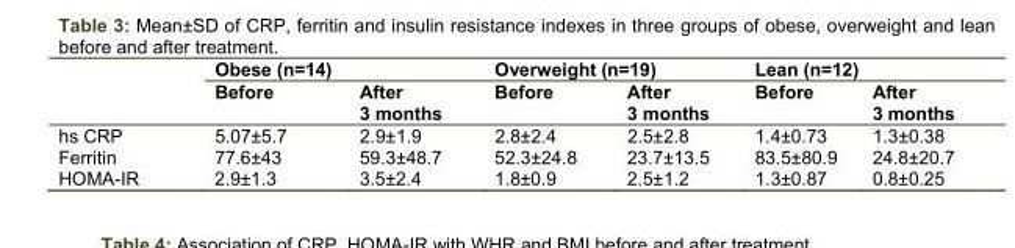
<table><thead><tr><td rowspan="2"></td><td colspan="2">Obese (n=14)</td><td colspan="2">Overweight (n=19)</td><td colspan="2">Lean (n=12)</td></tr><tr><td>Before</td><td>After 3 months</td><td>Before</td><td>After 3 months</td><td>Before</td><td>After 3 months</td></tr></thead><tbody><tr><td>hs CRP</td><td>5.07±5.7</td><td>2.9±1.9</td><td>2.8±2.4</td><td>2.5±2.8</td><td>1.4±0.73</td><td>1.3±0.38</td></tr><tr><td>Ferritin</td><td>77.6±43</td><td>59.3±48.7</td><td>52.3±24.8</td><td>23.7±13.5</td><td>83.5±80.9</td><td>24.8±20.7</td></tr><tr><td>HOMA-IR</td><td>2.9±1.3</td><td>3.5±2.4</td><td>1.8±0.9</td><td>2.5±1.2</td><td>1.3±0.87</td><td>0.8±0.25</td></tr></tbody></table>